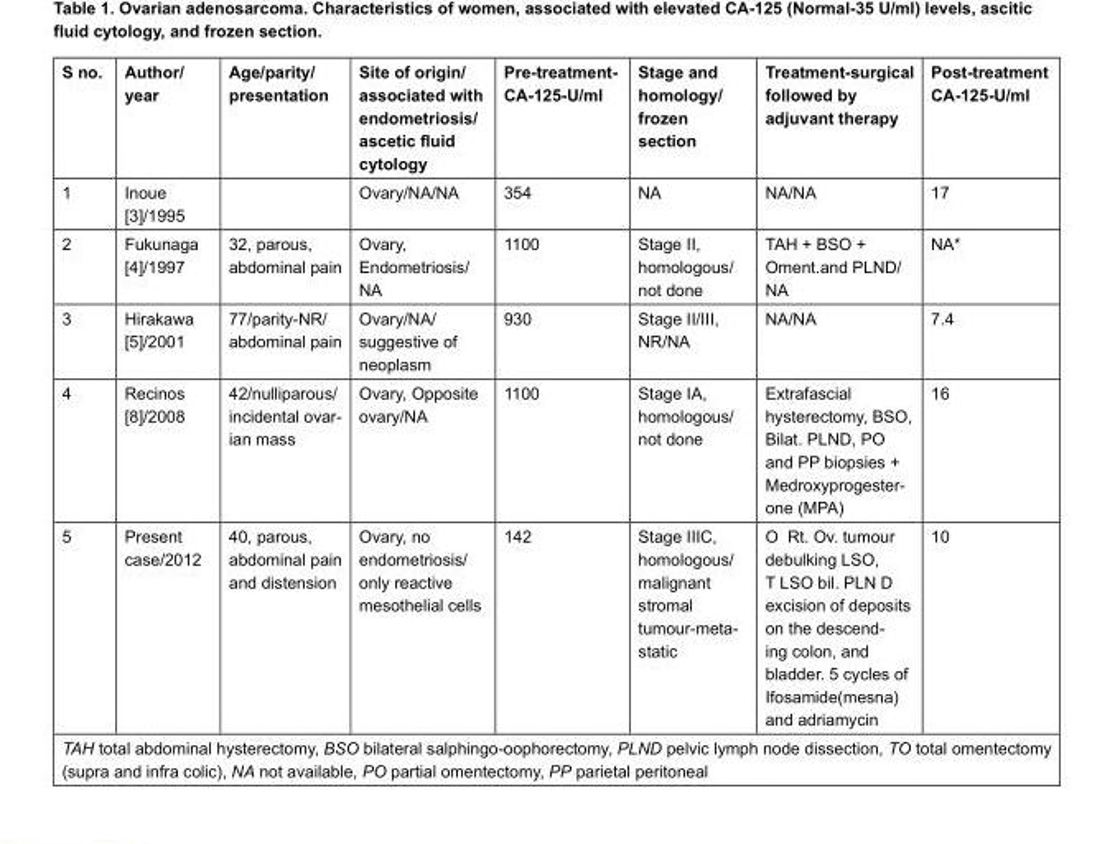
<table><thead><tr><td>S no.</td><td>Author/ year</td><td>Age/parity/ presentation</td><td>Site of origin/ associated with endometriosis/ ascetic fluid cytology</td><td>Pre-treatment- CA-125-U/ml</td><td>Stage and homology/ frozen section</td><td>Treatment-surgical followed by adjuvant therapy</td><td>Post-treatment CA-125-U/ml</td></tr></thead><tbody><tr><td>1</td><td>Inoue [3]/1995</td><td></td><td>Ovary/NA/NA</td><td>354</td><td>NA</td><td>NA/NA</td><td>17</td></tr><tr><td>2</td><td>Fukunaga [4]/1997</td><td>32, parous, abdominal pain</td><td>Ovary, Endometriosis/ NA</td><td>1100</td><td>Stage II, homologous/ not done</td><td>TAH + BSO + Oment.and PLND/ NA</td><td>NA*</td></tr><tr><td>3</td><td>Hirakawa [5]/2001</td><td>77/parity-NR/ abdominal pain</td><td>Ovary/NA/ suggestive of neoplasm</td><td>930</td><td>Stage II/III, NR/NA</td><td>NA/NA</td><td>7.4</td></tr><tr><td>4</td><td>Recinos [8]/2008</td><td>42/nulliparous/ incidental ovar- ian mass</td><td>Ovary, Opposite ovary/NA</td><td>1100</td><td>Stage IA, homologous/ not done</td><td>Extrafascial hysterectomy, BSO, Bilat. PLND, PO and PP biopsies + Medroxyprogester- one (MPA)</td><td>16</td></tr><tr><td>5</td><td>Present case/2012</td><td>40, parous, abdominal pain and distension</td><td>Ovary, no endometriosis/ only reactive mesothelial cells</td><td>142</td><td>Stage IIIC, homologous/ malignant stromal tumour-meta- static</td><td>O Rt. Ov. tumour debulking LSO, T LSO bil. PLN D excision of deposits on the descend- ing colon, and bladder. 5 cycles of Ifosamide(mesna) and adriamycin</td><td>10</td></tr><tr><td colspan="8">TAH total abdominal hysterectomy, BSO bilateral salphingo-oophorectomy, PLND pelvic lymph node dissection, TO total omentectomy (supra and infra colic), NA not available, PO partial omentectomy, PP parietal peritoneal</td></tr></tbody></table>